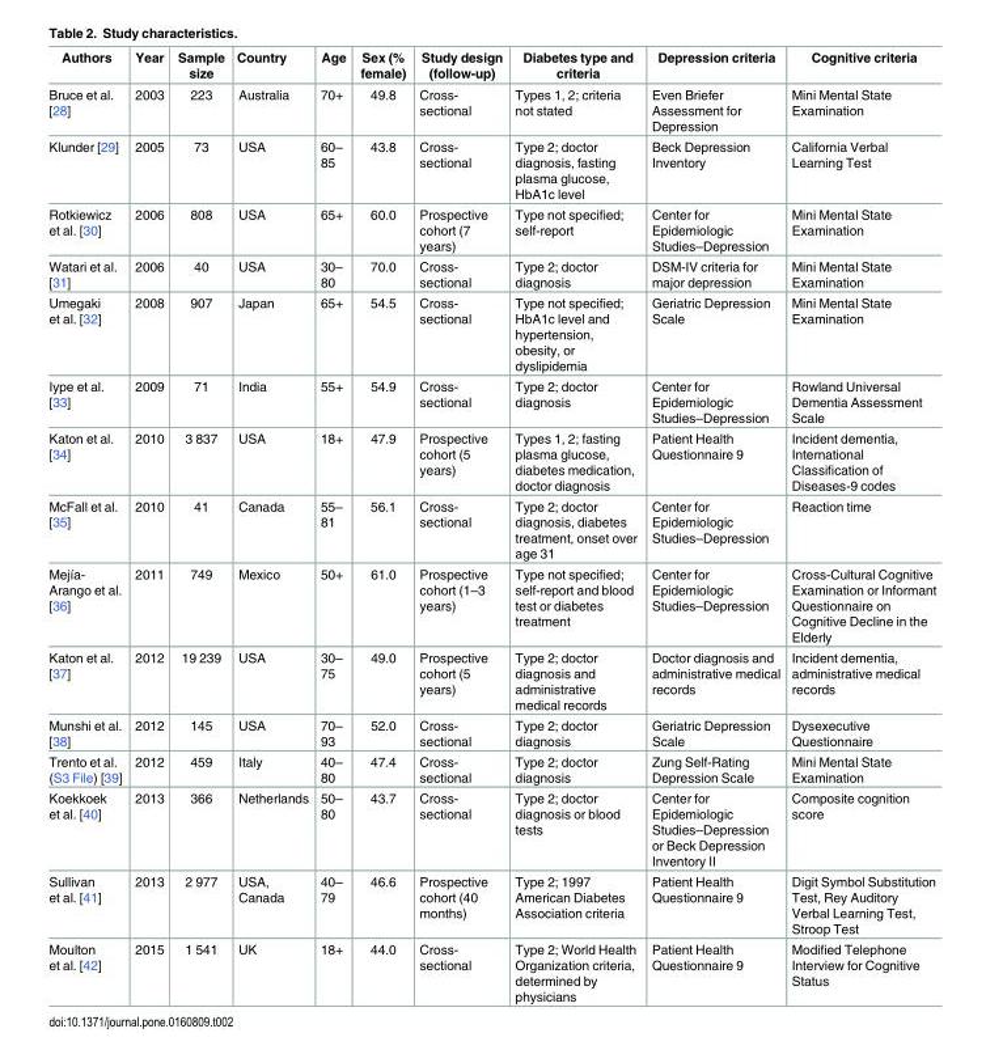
<table><thead><tr><td>Authors</td><td>Year</td><td>Sample size</td><td>Country</td><td>Age</td><td>Sex (% female)</td><td>Study design (follow-up)</td><td>Diabetes type and criteria</td><td>Depression criteria</td><td>Cognitive criteria</td></tr></thead><tbody><tr><td>Bruce et al. [28]</td><td>2003</td><td>223</td><td>Australia</td><td>70+</td><td>49.8</td><td>Cross- sectional</td><td>Types 1, 2; criteria not stated</td><td>Even Briefer Assessment for Depression</td><td>Mini Mental State Examination</td></tr><tr><td>Klunder [29]</td><td>2005</td><td>73</td><td>USA</td><td>60– 85</td><td>43.8</td><td>Cross- sectional</td><td>Type 2; doctor diagnosis, fasting plasma glucose, HbA1c level</td><td>Beck Depression Inventory</td><td>California Verbal Learning Test</td></tr><tr><td>Rotkiewicz et al. [30]</td><td>2006</td><td>808</td><td>USA</td><td>65+</td><td>60.0</td><td>Prospective cohort (7 years)</td><td>Type not specified; self-report</td><td>Center for Epidemiologic Studies–Depression</td><td>Mini Mental State Examination</td></tr><tr><td>Watari et al. [31]</td><td>2006</td><td>40</td><td>USA</td><td>30– 80</td><td>70.0</td><td>Cross- sectional</td><td>Type 2; doctor diagnosis</td><td>DSM-IV criteria for major depression</td><td>Mini Mental State Examination</td></tr><tr><td>Umegaki et al. [32]</td><td>2008</td><td>907</td><td>Japan</td><td>65+</td><td>54.5</td><td>Cross- sectional</td><td>Type not specified; HbA1c level and hypertension, obesity, or dyslipidemia</td><td>Geriatric Depression Scale</td><td>Mini Mental State Examination</td></tr><tr><td>Iype et al. [33]</td><td>2009</td><td>71</td><td>India</td><td>55+</td><td>54.9</td><td>Cross- sectional</td><td>Type 2; doctor diagnosis</td><td>Center for Epidemiologic Studies–Depression</td><td>Rowland Universal Dementia Assessment Scale</td></tr><tr><td>Katon et al. [34]</td><td>2010</td><td>3 837</td><td>USA</td><td>18+</td><td>47.9</td><td>Prospective cohort (5 years)</td><td>Types 1, 2; fasting plasma glucose, diabetes medication, doctor diagnosis</td><td>Patient Health Questionnaire 9</td><td>Incident dementia, International Classification of Diseases-9 codes</td></tr><tr><td>McFall et al. [35]</td><td>2010</td><td>41</td><td>Canada</td><td>55– 81</td><td>56.1</td><td>Cross- sectional</td><td>Type 2; doctor diagnosis, diabetes treatment, onset over age 31</td><td>Center for Epidemiologic Studies–Depression</td><td>Reaction time</td></tr><tr><td>Mejía- Arango et al. [36]</td><td>2011</td><td>749</td><td>Mexico</td><td>50+</td><td>61.0</td><td>Prospective cohort (1–3 years)</td><td>Type not specified; self-report and blood test or diabetes treatment</td><td>Center for Epidemiologic Studies–Depression</td><td>Cross-Cultural Cognitive Examination or Informant Questionnaire on Cognitive Decline in the Elderly</td></tr><tr><td>Katon et al. [37]</td><td>2012</td><td>19 239</td><td>USA</td><td>30– 75</td><td>49.0</td><td>Prospective cohort (5 years)</td><td>Type 2; doctor diagnosis and administrative medical records</td><td>Doctor diagnosis and administrative medical records</td><td>Incident dementia, administrative medical records</td></tr><tr><td>Munshi et al. [38]</td><td>2012</td><td>145</td><td>USA</td><td>70– 93</td><td>52.0</td><td>Cross- sectional</td><td>Type 2; doctor diagnosis</td><td>Geriatric Depression Scale</td><td>Dysexecutive Questionnaire</td></tr><tr><td>Trento et al. (S3 File) [39]</td><td>2012</td><td>459</td><td>Italy</td><td>40– 80</td><td>47.4</td><td>Cross- sectional</td><td>Type 2; doctor diagnosis</td><td>Zung Self-Rating Depression Scale</td><td>Mini Mental State Examination</td></tr><tr><td>Koekkoek et al. [40]</td><td>2013</td><td>366</td><td>Netherlands</td><td>50– 80</td><td>43.7</td><td>Cross- sectional</td><td>Type 2; doctor diagnosis or blood tests</td><td>Center for Epidemiologic Studies–Depression or Beck Depression Inventory II</td><td>Composite cognition score</td></tr><tr><td>Sullivan et al. [41]</td><td>2013</td><td>2 977</td><td>USA, Canada</td><td>40– 79</td><td>46.6</td><td>Prospective cohort (40 months)</td><td>Type 2; 1997 American Diabetes Association criteria</td><td>Patient Health Questionnaire 9</td><td>Digit Symbol Substitution Test, Rey Auditory Verbal Learning Test, Stroop Test</td></tr><tr><td>Moulton et al. [42]</td><td>2015</td><td>1 541</td><td>UK</td><td>18+</td><td>44.0</td><td>Cross- sectional</td><td>Type 2; World Health Organization criteria, determined by physicians</td><td>Patient Health Questionnaire 9</td><td>Modified Telephone Interview for Cognitive Status</td></tr></tbody></table>